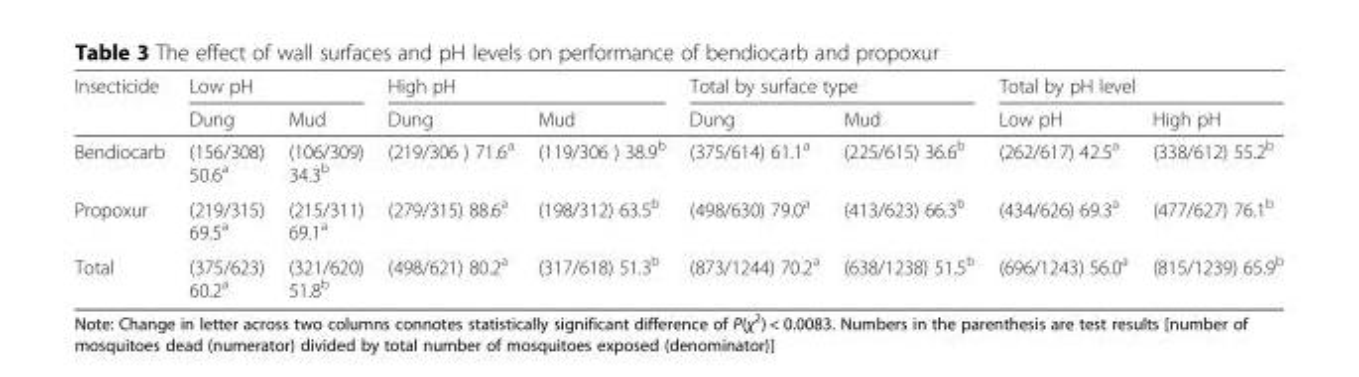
<table><thead><tr><td rowspan="2">Insecticide</td><td colspan="2">Low pH</td><td colspan="2">High pH</td><td colspan="2">Total by surface type</td><td colspan="2">Total by pH level</td></tr><tr><td>Dung</td><td>Mud</td><td>Dung</td><td>Mud</td><td>Dung</td><td>Mud</td><td>Low pH</td><td>High pH</td></tr></thead><tbody><tr><td>Bendiocarb</td><td>(156/308) 50.6<sup>a</sup></td><td>(106/309) 34.3<sup>b</sup></td><td>(219/306 ) 71.6<sup>a</sup></td><td>(119/306 ) 38.9<sup>b</sup></td><td>(375/614) 61.1<sup>a</sup></td><td>(225/615) 36.6<sup>b</sup></td><td>(262/617) 42.5<sup>a</sup></td><td>(338/612) 55.2<sup>b</sup></td></tr><tr><td>Propoxur</td><td>(219/315) 69.5<sup>a</sup></td><td>(215/311) 69.1<sup>a</sup></td><td>(279/315) 88.6<sup>a</sup></td><td>(198/312) 63.5<sup>b</sup></td><td>(498/630) 79.0<sup>a</sup></td><td>(413/623) 66.3<sup>b</sup></td><td>(434/626) 69.3<sup>a</sup></td><td>(477/627) 76.1<sup>b</sup></td></tr><tr><td>Total</td><td>(375/623) 60.2<sup>a</sup></td><td>(321/620) 51.8<sup>b</sup></td><td>(498/621) 80.2<sup>a</sup></td><td>(317/618) 51.3<sup>b</sup></td><td>(873/1244) 70.2<sup>a</sup></td><td>(638/1238) 51.5<sup>b</sup></td><td>(696/1243) 56.0<sup>a</sup></td><td>(815/1239) 65.9<sup>b</sup></td></tr></tbody></table>